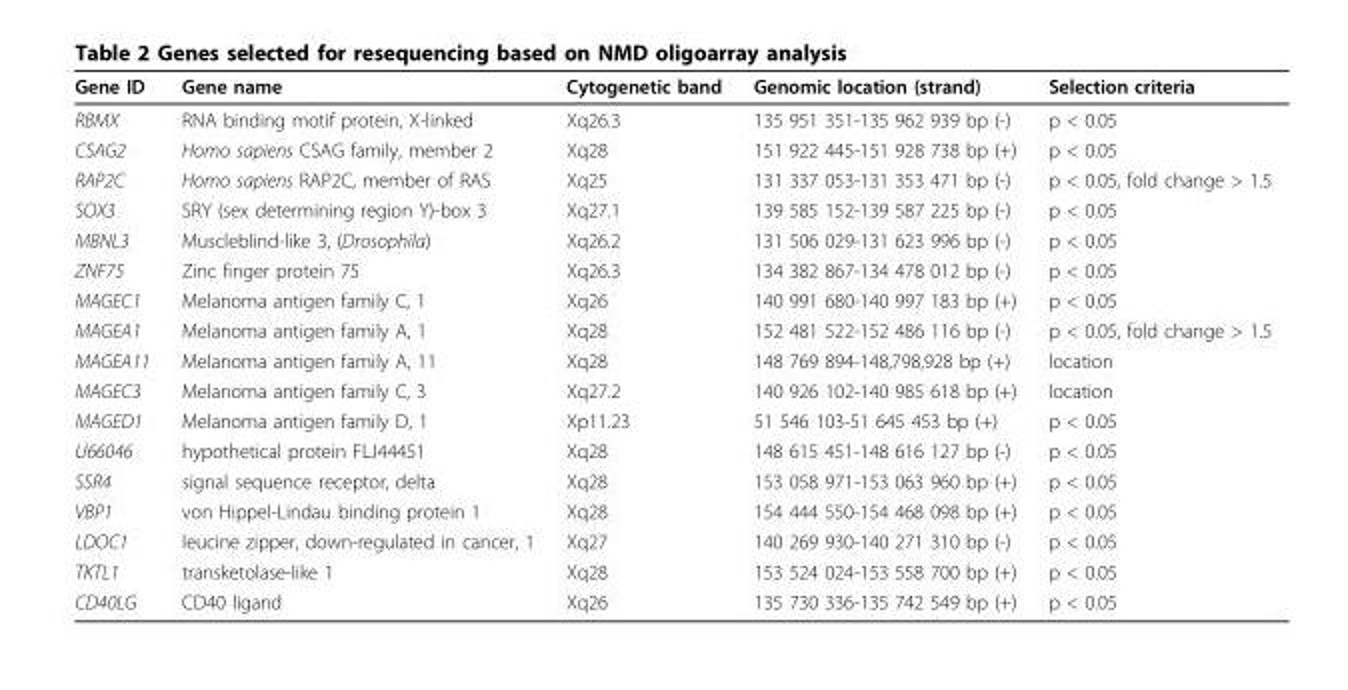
<table><thead><tr><td>Gene ID</td><td>Gene name</td><td>Cytogenetic band</td><td>Genomic location (strand)</td><td>Selection criteria</td></tr></thead><tbody><tr><td>RBMX</td><td>RNA binding motif protein, X-linked</td><td>Xq26.3</td><td>135 951 351-135 962 939 bp (-)</td><td>p &lt; 0.05</td></tr><tr><td>CSAG2</td><td>Homo sapiens CSAG family, member 2</td><td>Xq28</td><td>151 922 445-151 928 738 bp (+)</td><td>p &lt; 0.05</td></tr><tr><td>RAP2C</td><td>Homo sapiens RAP2C, member of RAS</td><td>Xq25</td><td>131 337 053-131 353 471 bp (-)</td><td>p &lt; 0.05, fold change &gt; 1.5</td></tr><tr><td>SOX3</td><td>SRY (sex determining region Y)-box 3</td><td>Xq27.1</td><td>139 585 152-139 587 225 bp (-)</td><td>p &lt; 0.05</td></tr><tr><td>MBNL3</td><td>Muscleblind-like 3, (Drosophila)</td><td>Xq26.2</td><td>131 506 029-131 623 996 bp (-)</td><td>p &lt; 0.05</td></tr><tr><td>ZNF75</td><td>Zinc finger protein 75</td><td>Xq26.3</td><td>134 382 867-134 478 012 bp (-)</td><td>p &lt; 0.05</td></tr><tr><td>MAGEC1</td><td>Melanoma antigen family C, 1</td><td>Xq26</td><td>140 991 680-140 997 183 bp (+)</td><td>p &lt; 0.05</td></tr><tr><td>MAGEA1</td><td>Melanoma antigen family A, 1</td><td>Xq28</td><td>152 481 522-152 486 116 bp (-)</td><td>p &lt; 0.05, fold change &gt; 1.5</td></tr><tr><td>MAGEA11</td><td>Melanoma antigen family A, 11</td><td>Xq28</td><td>148 769 894-148,798,928 bp (+)</td><td>location</td></tr><tr><td>MAGEC3</td><td>Melanoma antigen family C, 3</td><td>Xq27.2</td><td>140 926 102-140 985 618 bp (+)</td><td>location</td></tr><tr><td>MAGED1</td><td>Melanoma antigen family D, 1</td><td>Xp11.23</td><td>51 546 103-51 645 453 bp (+)</td><td>p &lt; 0.05</td></tr><tr><td>U66046</td><td>hypothetical protein FLJ44451</td><td>Xq28</td><td>148 615 451-148 616 127 bp (-)</td><td>p &lt; 0.05</td></tr><tr><td>SSR4</td><td>signal sequence receptor, delta</td><td>Xq28</td><td>153 058 971-153 063 960 bp (+)</td><td>p &lt; 0.05</td></tr><tr><td>VBP1</td><td>von Hippel-Lindau binding protein 1</td><td>Xq28</td><td>154 444 550-154 468 098 bp (+)</td><td>p &lt; 0.05</td></tr><tr><td>LDOC1</td><td>leucine zipper, down-regulated in cancer, 1</td><td>Xq27</td><td>140 269 930-140 271 310 bp (-)</td><td>p &lt; 0.05</td></tr><tr><td>TKTL1</td><td>transketolase-like 1</td><td>Xq28</td><td>153 524 024-153 558 700 bp (+)</td><td>p &lt; 0.05</td></tr><tr><td>CD40LG</td><td>CD40 ligand</td><td>Xq26</td><td>135 730 336-135 742 549 bp (+)</td><td>p &lt; 0.05</td></tr></tbody></table>